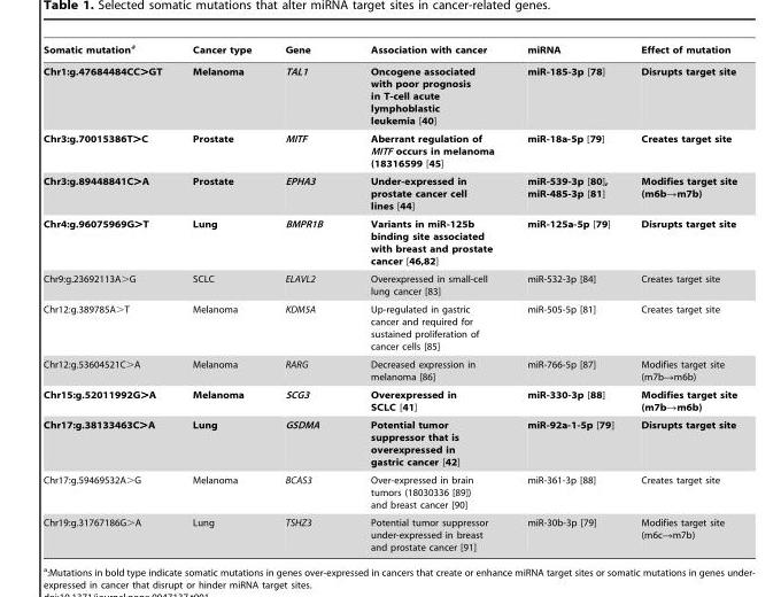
<table><thead><tr><td>Somatic mutation<sup>a</sup></td><td>Cancer type</td><td>Gene</td><td>Association with cancer</td><td>miRNA</td><td>Effect of mutation</td></tr></thead><tbody><tr><td>Chr1:g.47684484CC&gt;GT</td><td>Melanoma</td><td>TAL1</td><td>Oncogene associated with poor prognosis in T-cell acute lymphoblastic leukemia [40]</td><td>miR-185-3p [78]</td><td>Disrupts target site</td></tr><tr><td>Chr3:g.70015386T&gt;C</td><td>Prostate</td><td>MITF</td><td>Aberrant regulation of MITF occurs in melanoma (18316599 [45]</td><td>miR-18a-5p [79]</td><td>Creates target site</td></tr><tr><td>Chr3:g.89448841C&gt;A</td><td>Prostate</td><td>EPHA3</td><td>Under-expressed in prostate cancer cell lines [44]</td><td>miR-539-3p [80], miR-485-3p [81]</td><td>Modifies target site (m6b→m7b)</td></tr><tr><td>Chr4:g.96075969G&gt;T</td><td>Lung</td><td>BMPR1B</td><td>Variants in miR-125b binding site associated with breast and prostate cancer [46,82]</td><td>miR-125a-5p [79]</td><td>Disrupts target site</td></tr><tr><td>Chr9:g.23692113A&gt;G</td><td>SCLC</td><td>ELAVL2</td><td>Overexpressed in small-cell lung cancer [83]</td><td>miR-532-3p [84]</td><td>Creates target site</td></tr><tr><td>Chr12:g.389785A&gt;T</td><td>Melanoma</td><td>KDM5A</td><td>Up-regulated in gastric cancer and required for sustained proliferation of cancer cells [85]</td><td>miR-505-5p [81]</td><td>Creates target site</td></tr><tr><td>Chr12:g.53604521C&gt;A</td><td>Melanoma</td><td>RARG</td><td>Decreased expression in melanoma [86]</td><td>miR-766-5p [87]</td><td>Modifies target site (m7b→m6b)</td></tr><tr><td>Chr15:g.52011992G&gt;A</td><td>Melanoma</td><td>SCG3</td><td>Overexpressed in SCLC [41]</td><td>miR-330-3p [88]</td><td>Modifies target site (m7b→m6b)</td></tr><tr><td>Chr17:g.38133463C&gt;A</td><td>Lung</td><td>GSDMA</td><td>Potential tumor suppressor that is overexpressed in gastric cancer [42]</td><td>miR-92a-1-5p [79]</td><td>Disrupts target site</td></tr><tr><td>Chr17:g.59469532A&gt;G</td><td>Melanoma</td><td>BCAS3</td><td>Over-expressed in brain tumors (18030336 [89]) and breast cancer [90]</td><td>miR-361-3p [88]</td><td>Creates target site</td></tr><tr><td>Chr19:g.31767186G&gt;A</td><td>Lung</td><td>TSHZ3</td><td>Potential tumor suppressor under-expressed in breast and prostate cancer [91]</td><td>miR-30b-3p [79]</td><td>Modifies target site (m6c→m7b)</td></tr></tbody></table>